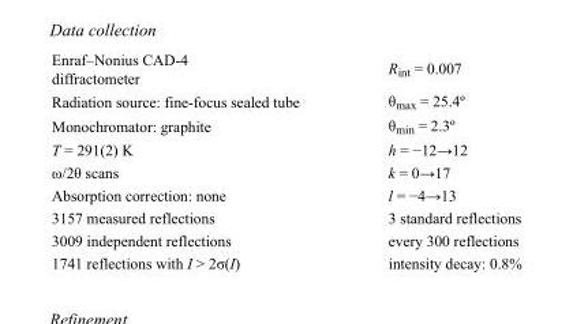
<table><tbody><tr><td>Enraf–Nonius CAD-4 diffractometer</td><td>R<sub>int</sub> = 0.007</td></tr><tr><td>Radiation source: fine-focus sealed tube</td><td>θ<sub>max</sub> = 25.4º</td></tr><tr><td>Monochromator: graphite</td><td>θ<sub>min</sub> = 2.3º</td></tr><tr><td>T = 291(2) K</td><td>h = −12→12</td></tr><tr><td>ω/2θ scans</td><td>k = 0→17</td></tr><tr><td>Absorption correction: none</td><td>l = −4→13</td></tr><tr><td>3157 measured reflections</td><td>3 standard reflections</td></tr><tr><td>3009 independent reflections</td><td>every 300 reflections</td></tr><tr><td>1741 reflections with I &gt; 2σ(I)</td><td>intensity decay: 0.8%</td></tr></tbody></table>